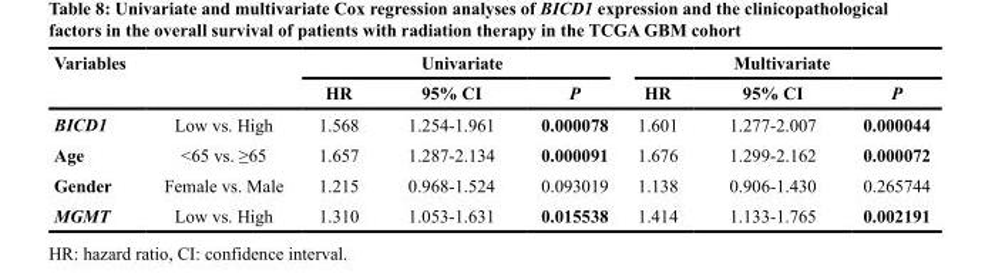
<table><thead><tr><td rowspan="2">Variables</td><td rowspan="2"></td><td colspan="3">Univariate</td><td colspan="3">Multivariate</td></tr><tr><td>HR</td><td>95% CI</td><td>P</td><td>HR</td><td>95% CI</td><td>P</td></tr></thead><tbody><tr><td>BICD1</td><td>Low vs. High</td><td>1.568</td><td>1.254-1.961</td><td>0.000078</td><td>1.601</td><td>1.277-2.007</td><td>0.000044</td></tr><tr><td>Age</td><td>&lt;65 vs. ≥65</td><td>1.657</td><td>1.287-2.134</td><td>0.000091</td><td>1.676</td><td>1.299-2.162</td><td>0.000072</td></tr><tr><td>Gender</td><td>Female vs. Male</td><td>1.215</td><td>0.968-1.524</td><td>0.093019</td><td>1.138</td><td>0.906-1.430</td><td>0.265744</td></tr><tr><td>MGMT</td><td>Low vs. High</td><td>1.310</td><td>1.053-1.631</td><td>0.015538</td><td>1.414</td><td>1.133-1.765</td><td>0.002191</td></tr></tbody></table>